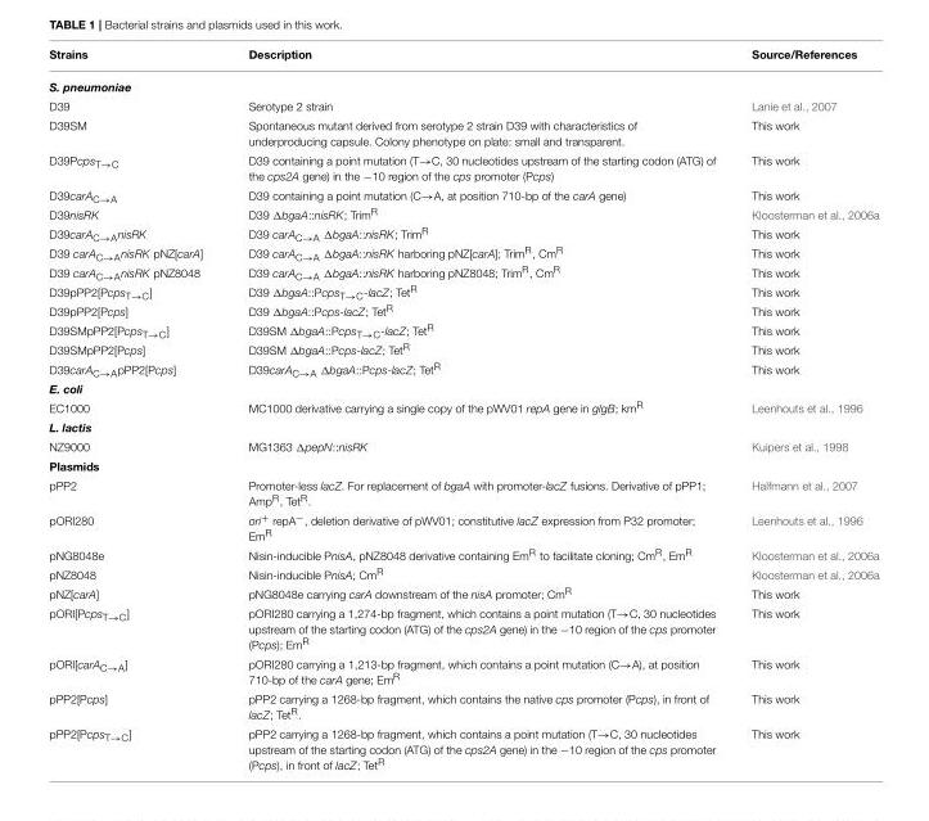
<table><thead><tr><td>Strains</td><td>Description</td><td>Source/References</td></tr></thead><tbody><tr><td colspan="3">S. pneumoniae</td></tr><tr><td>D39</td><td>Serotype 2 strain</td><td>Lanie et al., 2007</td></tr><tr><td>D39SM</td><td>Spontaneous mutant derived from serotype 2 strain D39 with characteristics of underproducing capsule. Colony phenotype on plate: small and transparent.</td><td>This work</td></tr><tr><td>D39Pcps<sub>T→C</sub></td><td>D39 containing a point mutation (T→C, 30 nucleotides upstream of the starting codon (ATG) of the cps2A gene) in the −10 region of the cps promoter (Pcps)</td><td>This work</td></tr><tr><td>D39carA<sub>C→A</sub></td><td>D39 containing a point mutation (C→A, at position 710-bp of the carA gene)</td><td>This work</td></tr><tr><td>D39nisRK</td><td>D39 ΔbgaA::nisRK; Trim<sup>R</sup></td><td>Kloosterman et al., 2006a</td></tr><tr><td>D39carA<sub>C→A</sub>nisRK</td><td>D39 carA<sub>C→A</sub> ΔbgaA::nisRK; Trim<sup>R</sup></td><td>This work</td></tr><tr><td>D39 carA<sub>C→A</sub>nisRK pNZ[carA]</td><td>D39 carA<sub>C→A</sub> ΔbgaA::nisRK harboring pNZ[carA]; Trim<sup>R</sup>, Cm<sup>R</sup></td><td>This work</td></tr><tr><td>D39 carA<sub>C→A</sub>nisRK pNZ8048</td><td>D39 carA<sub>C→A</sub> ΔbgaA::nisRK harboring pNZ8048; Trim<sup>R</sup>, Cm<sup>R</sup></td><td>This work</td></tr><tr><td>D39pPP2[Pcps<sub>T→C</sub>]</td><td>D39 ΔbgaA::Pcps<sub>T→C</sub>-lacZ; Tet<sup>R</sup></td><td>This work</td></tr><tr><td>D39pPP2[Pcps]</td><td>D39 ΔbgaA::Pcps-lacZ; Tet<sup>R</sup></td><td>This work</td></tr><tr><td>D39SMpPP2[Pcps<sub>T→C</sub>]</td><td>D39SM ΔbgaA::Pcps<sub>T→C</sub>-lacZ; Tet<sup>R</sup></td><td>This work</td></tr><tr><td>D39SMpPP2[Pcps]</td><td>D39SM ΔbgaA::Pcps-lacZ; Tet<sup>R</sup></td><td>This work</td></tr><tr><td>D39carA<sub>C→A</sub>pPP2[Pcps]</td><td>D39carA<sub>C→A</sub> ΔbgaA::Pcps-lacZ; Tet<sup>R</sup></td><td>This work</td></tr><tr><td colspan="3">E. coli</td></tr><tr><td>EC1000</td><td>MC1000 derivative carrying a single copy of the pWV01 repA gene in glgB; km<sup>R</sup></td><td>Leenhouts et al., 1996</td></tr><tr><td colspan="3">L. lactis</td></tr><tr><td>NZ9000</td><td>MG1363 ΔpepN::nisRK</td><td>Kuipers et al., 1998</td></tr><tr><td colspan="3">Plasmids</td></tr><tr><td>pPP2</td><td>Promoter-less lacZ. For replacement of bgaA with promoter-lacZ fusions. Derivative of pPP1; Amp<sup>R</sup>, Tet<sup>R</sup>.</td><td>Halfmann et al., 2007</td></tr><tr><td>pORI280</td><td>ori<sup>+</sup> repA<sup>−</sup>, deletion derivative of pWV01; constitutive lacZ expression from P32 promoter; Em<sup>R</sup></td><td>Leenhouts et al., 1996</td></tr><tr><td>pNG8048e</td><td>Nisin-inducible PnisA, pNZ8048 derivative containing Em<sup>R</sup> to facilitate cloning; Cm<sup>R</sup>, Em<sup>R</sup></td><td>Kloosterman et al., 2006a</td></tr><tr><td>pNZ8048</td><td>Nisin-inducible PnisA; Cm<sup>R</sup></td><td>Kloosterman et al., 2006a</td></tr><tr><td>pNZ[carA]</td><td>pNG8048e carrying carA downstream of the nisA promoter; Cm<sup>R</sup></td><td>This work</td></tr><tr><td>pORI[Pcps<sub>T→C</sub>]</td><td>pORI280 carrying a 1,274-bp fragment, which contains a point mutation (T→C, 30 nucleotides upstream of the starting codon (ATG) of the cps2A gene) in the −10 region of the cps promoter (Pcps); Em<sup>R</sup></td><td>This work</td></tr><tr><td>pORI[carA<sub>C→A</sub>]</td><td>pORI280 carrying a 1,213-bp fragment, which contains a point mutation (C→A), at position 710-bp of the carA gene; Em<sup>R</sup></td><td>This work</td></tr><tr><td>pPP2[Pcps]</td><td>pPP2 carrying a 1268-bp fragment, which contains the native cps promoter (Pcps), in front of lacZ; Tet<sup>R</sup>.</td><td>This work</td></tr><tr><td>pPP2[Pcps<sub>T→C</sub>]</td><td>pPP2 carrying a 1268-bp fragment, which contains a point mutation (T→C, 30 nucleotides upstream of the starting codon (ATG) of the cps2A gene) in the −10 region of the cps promoter (Pcps), in front of lacZ; Tet<sup>R</sup></td><td>This work</td></tr></tbody></table>